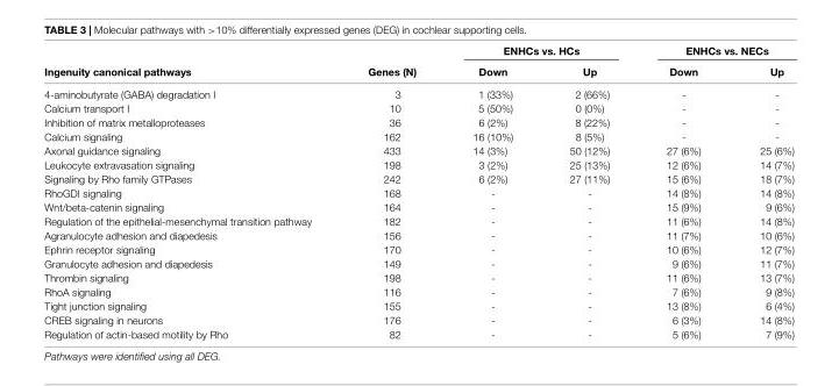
<table><thead><tr><td rowspan="2">Ingenuity canonical pathways</td><td rowspan="2">Genes (N)</td><td colspan="2">ENHCs vs. HCs</td><td colspan="2">ENHCs vs. NECs</td></tr><tr><td>Down</td><td>Up</td><td>Down</td><td>Up</td></tr></thead><tbody><tr><td>4-aminobutyrate (GABA) degradation I</td><td>3</td><td>1 (33%)</td><td>2 (66%)</td><td>-</td><td>-</td></tr><tr><td>Calcium transport I</td><td>10</td><td>5 (50%)</td><td>0 (0%)</td><td>-</td><td>-</td></tr><tr><td>Inhibition of matrix metalloproteases</td><td>36</td><td>6 (2%)</td><td>8 (22%)</td><td>-</td><td>-</td></tr><tr><td>Calcium signaling</td><td>162</td><td>16 (10%)</td><td>8 (5%)</td><td>-</td><td>-</td></tr><tr><td>Axonal guidance signaling</td><td>433</td><td>14 (3%)</td><td>50 (12%)</td><td>27 (6%)</td><td>25 (6%)</td></tr><tr><td>Leukocyte extravasation signaling</td><td>198</td><td>3 (2%)</td><td>25 (13%)</td><td>12 (6%)</td><td>14 (7%)</td></tr><tr><td>Signaling by Rho family GTPases</td><td>242</td><td>6 (2%)</td><td>27 (11%)</td><td>15 (6%)</td><td>18 (7%)</td></tr><tr><td>RhoGDI signaling</td><td>168</td><td>-</td><td>-</td><td>14 (8%)</td><td>14 (8%)</td></tr><tr><td>Wnt/beta-catenin signaling</td><td>164</td><td>-</td><td>-</td><td>15 (9%)</td><td>9 (6%)</td></tr><tr><td>Regulation of the epithelial-mesenchymal transition pathway</td><td>182</td><td>-</td><td>-</td><td>11 (6%)</td><td>14 (8%)</td></tr><tr><td>Agranulocyte adhesion and diapedesis</td><td>156</td><td>-</td><td>-</td><td>11 (7%)</td><td>10 (6%)</td></tr><tr><td>Ephrin receptor signaling</td><td>170</td><td>-</td><td>-</td><td>10 (6%)</td><td>12 (7%)</td></tr><tr><td>Granulocyte adhesion and diapedesis</td><td>149</td><td>-</td><td>-</td><td>9 (6%)</td><td>11 (7%)</td></tr><tr><td>Thrombin signaling</td><td>198</td><td>-</td><td>-</td><td>11 (6%)</td><td>13 (7%)</td></tr><tr><td>RhoA signaling</td><td>116</td><td>-</td><td>-</td><td>7 (6%)</td><td>9 (8%)</td></tr><tr><td>Tight junction signaling</td><td>155</td><td>-</td><td>-</td><td>13 (8%)</td><td>6 (4%)</td></tr><tr><td>CREB signaling in neurons</td><td>176</td><td>-</td><td>-</td><td>6 (3%)</td><td>14 (8%)</td></tr><tr><td>Regulation of actin-based motility by Rho</td><td>82</td><td>-</td><td>-</td><td>5 (6%)</td><td>7 (9%)</td></tr></tbody></table>